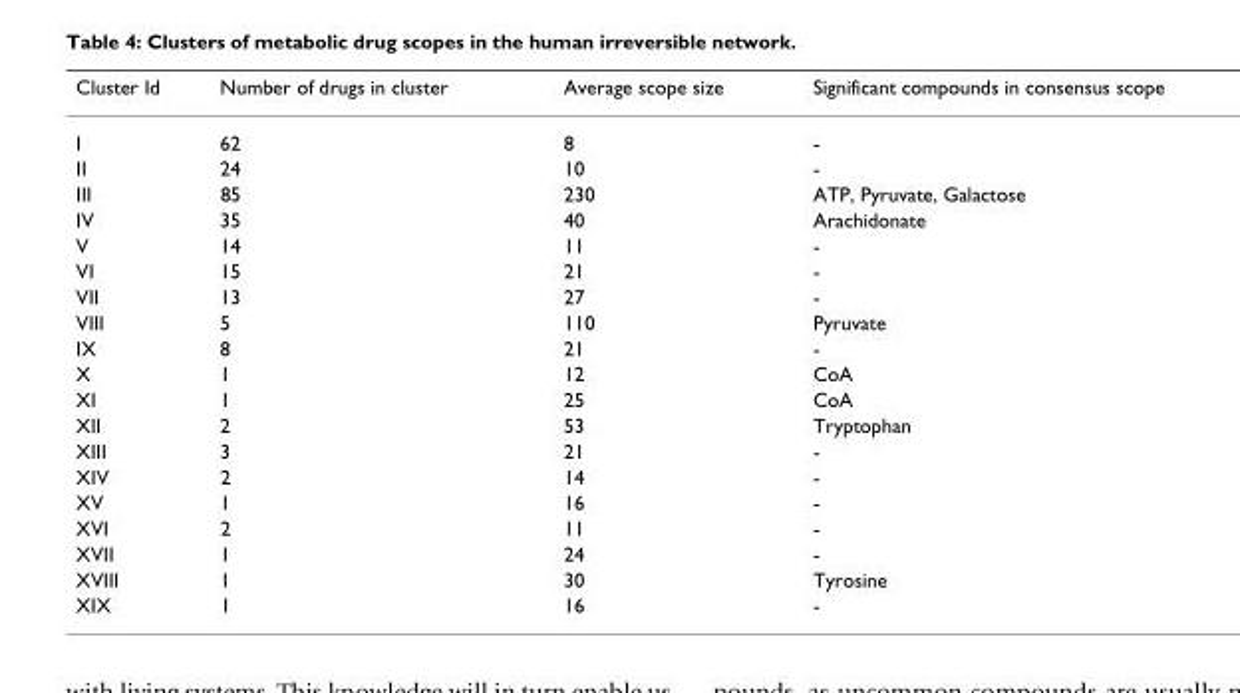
<table><thead><tr><td>Cluster Id</td><td>Number of drugs in cluster</td><td>Average scope size</td><td>Significant compounds in consensus scope</td></tr></thead><tbody><tr><td>I</td><td>62</td><td>8</td><td>-</td></tr><tr><td>II</td><td>24</td><td>10</td><td>-</td></tr><tr><td>III</td><td>85</td><td>230</td><td>ATP, Pyruvate, Galactose</td></tr><tr><td>IV</td><td>35</td><td>40</td><td>Arachidonate</td></tr><tr><td>V</td><td>14</td><td>11</td><td>-</td></tr><tr><td>VI</td><td>15</td><td>21</td><td>-</td></tr><tr><td>VII</td><td>13</td><td>27</td><td>-</td></tr><tr><td>VIII</td><td>5</td><td>110</td><td>Pyruvate</td></tr><tr><td>IX</td><td>8</td><td>21</td><td>-</td></tr><tr><td>X</td><td>1</td><td>12</td><td>CoA</td></tr><tr><td>XI</td><td>1</td><td>25</td><td>CoA</td></tr><tr><td>XII</td><td>2</td><td>53</td><td>Tryptophan</td></tr><tr><td>XIII</td><td>3</td><td>21</td><td>-</td></tr><tr><td>XIV</td><td>2</td><td>14</td><td>-</td></tr><tr><td>XV</td><td>1</td><td>16</td><td>-</td></tr><tr><td>XVI</td><td>2</td><td>11</td><td>-</td></tr><tr><td>XVII</td><td>1</td><td>24</td><td>-</td></tr><tr><td>XVIII</td><td>1</td><td>30</td><td>Tyrosine</td></tr><tr><td>XIX</td><td>1</td><td>16</td><td>-</td></tr></tbody></table>